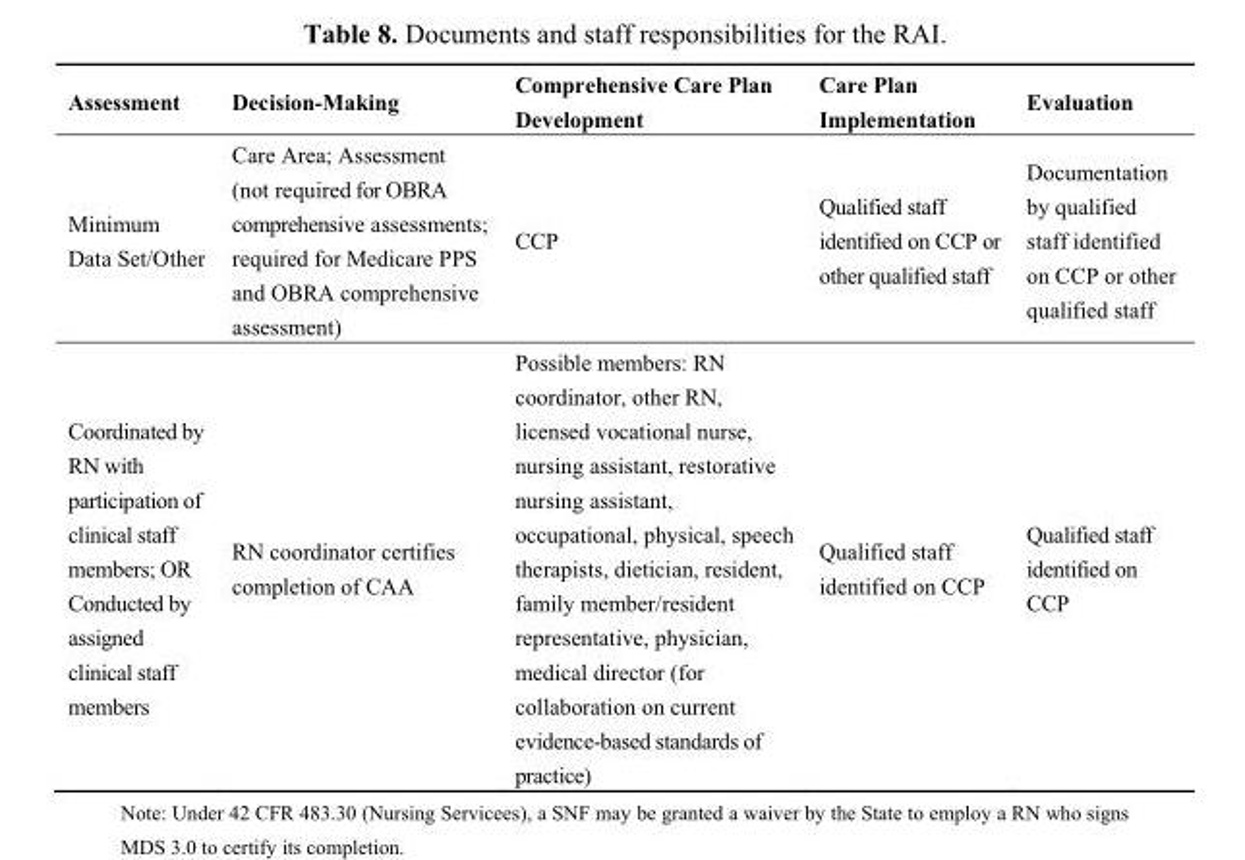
<table><thead><tr><td>Assessment</td><td>Decision-Making</td><td>Comprehensive Care Plan Development</td><td>Care Plan Implementation</td><td>Evaluation</td></tr></thead><tbody><tr><td>Minimum Data Set/Other</td><td>Care Area; Assessment (not required for OBRA comprehensive assessments; required for Medicare PPS and OBRA comprehensive assessment)</td><td>CCP</td><td>Qualified staff identified on CCP or other qualified staff</td><td>Documentation by qualified staff identified on CCP or other qualified staff</td></tr><tr><td>Coordinated by RN with participation of clinical staff members; OR Conducted by assigned clinical staff members</td><td>RN coordinator certifies completion of CAA</td><td>Possible members: RN coordinator, other RN, licensed vocational nurse, nursing assistant, restorative nursing assistant, occupational, physical, speech therapists, dietician, resident, family member/resident representative, physician, medical director (for collaboration on current evidence-based standards of practice)</td><td>Qualified staff identified on CCP</td><td>Qualified staff identified on CCP</td></tr></tbody></table>